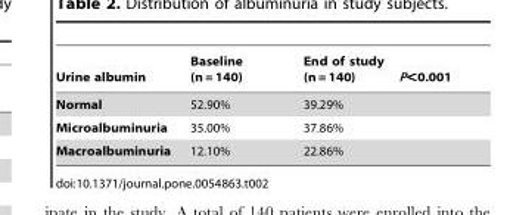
<table><thead><tr><td>Urine albumin</td><td>Baseline (n = 140)</td><td>End of study (n = 140)</td><td>P&lt;0.001</td></tr></thead><tbody><tr><td>Normal</td><td>52.90%</td><td>39.29%</td><td></td></tr><tr><td>Microalbuminuria</td><td>35.00%</td><td>37.86%</td><td></td></tr><tr><td>Macroalbuminuria</td><td>12.10%</td><td>22.86%</td><td></td></tr></tbody></table>